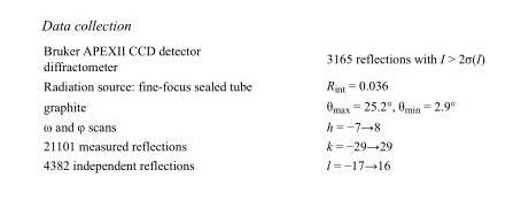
<table><tbody><tr><td>Bruker APEXII CCD detector diffractometer</td><td>3165 reflections with I &gt; 2σ(I)</td></tr><tr><td>Radiation source: fine-focus sealed tube</td><td>R<sub>int</sub> = 0.036</td></tr><tr><td>graphite</td><td>θ<sub>max</sub> = 25.2°, θ<sub>min</sub> = 2.9°</td></tr><tr><td>ω and φ scans</td><td>h = −7→8</td></tr><tr><td>21101 measured reflections</td><td>k = −29→29</td></tr><tr><td>4382 independent reflections</td><td>l = −17→16</td></tr></tbody></table>